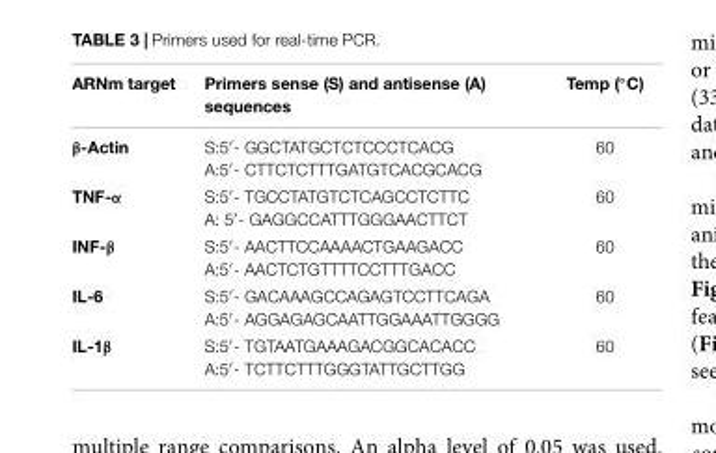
<table><thead><tr><td>ARNm target</td><td>Primers sense (S) and antisense (A) sequences</td><td>Temp (◦C)</td></tr></thead><tbody><tr><td>β-Actin</td><td>S:5′- GGCTATGCTCTCCCTCACG A:5′- CTTCTCTTTGATGTCACGCACG</td><td>60</td></tr><tr><td>TNF-α</td><td>S:5′- TGCCTATGTCTCAGCCTCTTC A: 5′- GAGGCCATTTGGGAACTTCT</td><td>60</td></tr><tr><td>INF-β</td><td>S:5′- AACTTCCAAAACTGAAGACC A:5′- AACTCTGTTTTCCTTTGACC</td><td>60</td></tr><tr><td>IL-6</td><td>S:5′- GACAAAGCCAGAGTCCTTCAGA A:5′- AGGAGAGCAATTGGAAATTGGGG</td><td>60</td></tr><tr><td>IL-1β</td><td>S:5′- TGTAATGAAAGACGGCACACC A:5′- TCTTCTTTGGGTATTGCTTGG</td><td>60</td></tr></tbody></table>